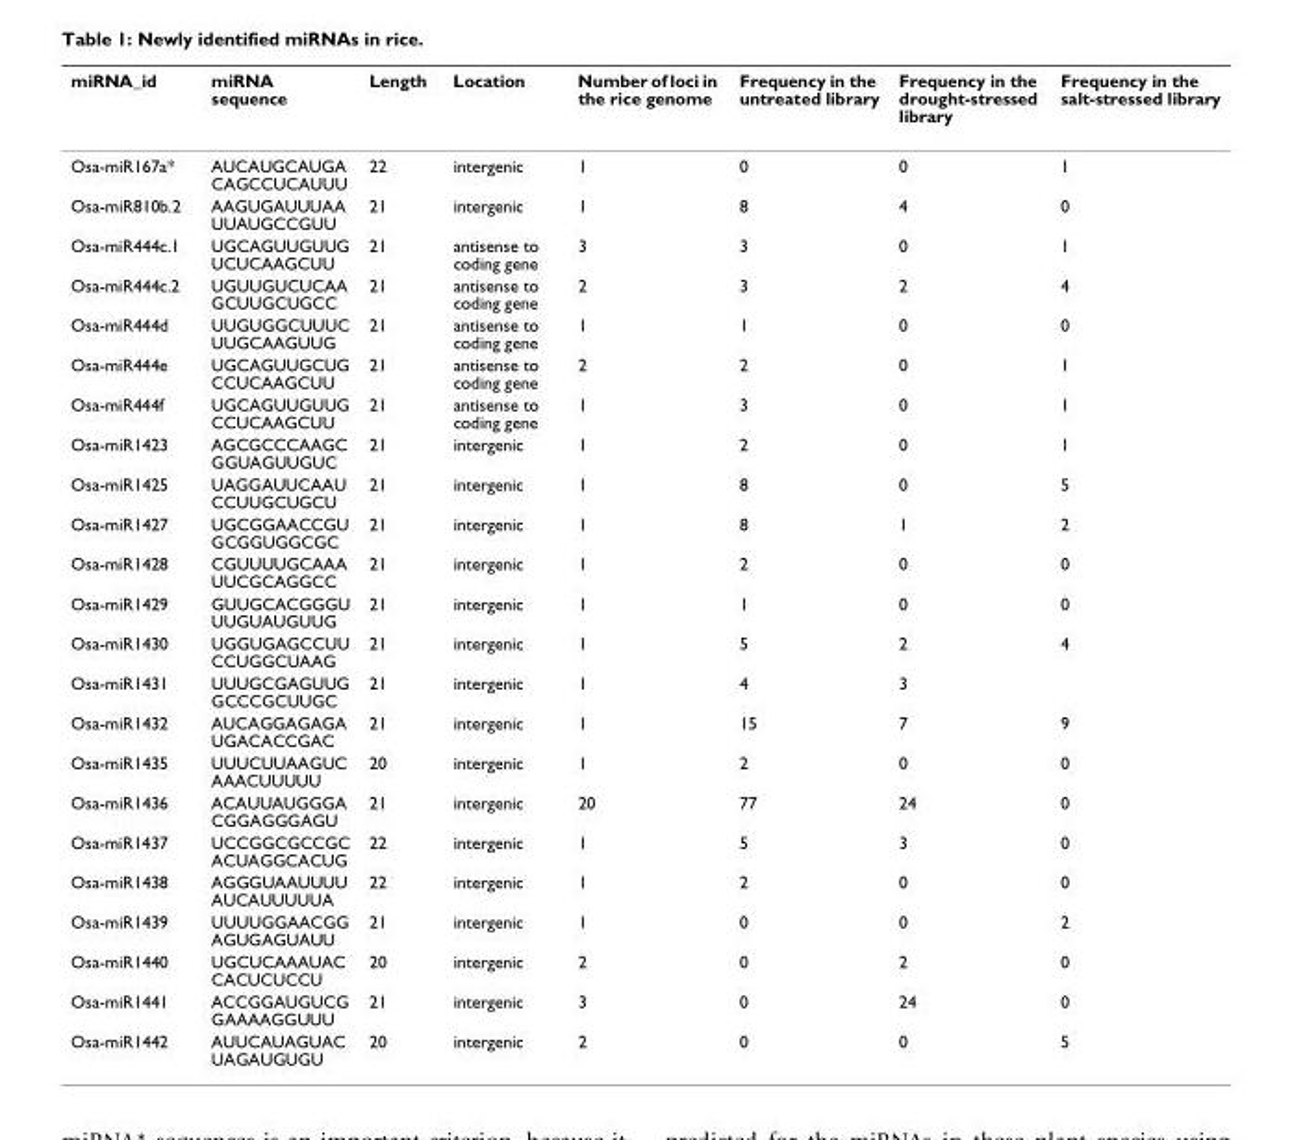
<table><thead><tr><td>miRNA_id</td><td>miRNA sequence</td><td>Length</td><td>Location</td><td>Number of loci in the rice genome</td><td>Frequency in the untreated library</td><td>Frequency in the drought-stressed library</td><td>Frequency in the salt-stressed library</td></tr></thead><tbody><tr><td>Osa-miR167a*</td><td>AUCAUGCAUGA CAGCCUCAUUU</td><td>22</td><td>intergenic</td><td>1</td><td>0</td><td>0</td><td>1</td></tr><tr><td>Osa-miR810b.2</td><td>AAGUGAUUUAA UUAUGCCGUU</td><td>21</td><td>intergenic</td><td>1</td><td>8</td><td>4</td><td>0</td></tr><tr><td>Osa-miR444c.1</td><td>UGCAGUUGUUG UCUCAAGCUU</td><td>21</td><td>antisense to coding gene</td><td>3</td><td>3</td><td>0</td><td>1</td></tr><tr><td>Osa-miR444c.2</td><td>UGUUGUCUCAA GCUUGCUGCC</td><td>21</td><td>antisense to coding gene</td><td>2</td><td>3</td><td>2</td><td>4</td></tr><tr><td>Osa-miR444d</td><td>UUGUGGCUUUC UUGCAAGUUG</td><td>21</td><td>antisense to coding gene</td><td>1</td><td>1</td><td>0</td><td>0</td></tr><tr><td>Osa-miR444e</td><td>UGCAGUUGCUG CCUCAAGCUU</td><td>21</td><td>antisense to coding gene</td><td>2</td><td>2</td><td>0</td><td>1</td></tr><tr><td>Osa-miR444f</td><td>UGCAGUUGUUG CCUCAAGCUU</td><td>21</td><td>antisense to coding gene</td><td>1</td><td>3</td><td>0</td><td>1</td></tr><tr><td>Osa-miR1423</td><td>AGCGCCCAAGC GGUAGUUGUC</td><td>21</td><td>intergenic</td><td>1</td><td>2</td><td>0</td><td>1</td></tr><tr><td>Osa-miR1425</td><td>UAGGAUUCAAU CCUUGCUGCU</td><td>21</td><td>intergenic</td><td>1</td><td>8</td><td>0</td><td>5</td></tr><tr><td>Osa-miR1427</td><td>UGCGGAACCGU GCGGUGGCGC</td><td>21</td><td>intergenic</td><td>1</td><td>8</td><td>1</td><td>2</td></tr><tr><td>Osa-miR1428</td><td>CGUUUUGCAAA UUCGCAGGCC</td><td>21</td><td>intergenic</td><td>1</td><td>2</td><td>0</td><td>0</td></tr><tr><td>Osa-miR1429</td><td>GUUGCACGGGU UUGUAUGUUG</td><td>21</td><td>intergenic</td><td>1</td><td>1</td><td>0</td><td>0</td></tr><tr><td>Osa-miR1430</td><td>UGGUGAGCCUU CCUGGCUAAG</td><td>21</td><td>intergenic</td><td>1</td><td>5</td><td>2</td><td>4</td></tr><tr><td>Osa-miR1431</td><td>UUUGCGAGUUG GCCCGCUUGC</td><td>21</td><td>intergenic</td><td>1</td><td>4</td><td>3</td><td></td></tr><tr><td>Osa-miR1432</td><td>AUCAGGAGAGA UGACACCGAC</td><td>21</td><td>intergenic</td><td>1</td><td>15</td><td>7</td><td>9</td></tr><tr><td>Osa-miR1435</td><td>UUUCUUAAGUC AAACUUUUU</td><td>20</td><td>intergenic</td><td>1</td><td>2</td><td>0</td><td>0</td></tr><tr><td>Osa-miR1436</td><td>ACAUUAUGGGA CGGAGGGAGU</td><td>21</td><td>intergenic</td><td>20</td><td>77</td><td>24</td><td>0</td></tr><tr><td>Osa-miR1437</td><td>UCCGGCGCCGC ACUAGGCACUG</td><td>22</td><td>intergenic</td><td>1</td><td>5</td><td>3</td><td>0</td></tr><tr><td>Osa-miR1438</td><td>AGGGUAAUUUU AUCAUUUUUA</td><td>22</td><td>intergenic</td><td>1</td><td>2</td><td>0</td><td>0</td></tr><tr><td>Osa-miR1439</td><td>UUUUGGAACGG AGUGAGUAUU</td><td>21</td><td>intergenic</td><td>1</td><td>0</td><td>0</td><td>2</td></tr><tr><td>Osa-miR1440</td><td>UGCUCAAAUAC CACUCUCCU</td><td>20</td><td>intergenic</td><td>2</td><td>0</td><td>2</td><td>0</td></tr><tr><td>Osa-miR1441</td><td>ACCGGAUGUCG GAAAAGGUUU</td><td>21</td><td>intergenic</td><td>3</td><td>0</td><td>24</td><td>0</td></tr><tr><td>Osa-miR1442</td><td>AUUCAUAGUAC UAGAUGUGU</td><td>20</td><td>intergenic</td><td>2</td><td>0</td><td>0</td><td>5</td></tr></tbody></table>